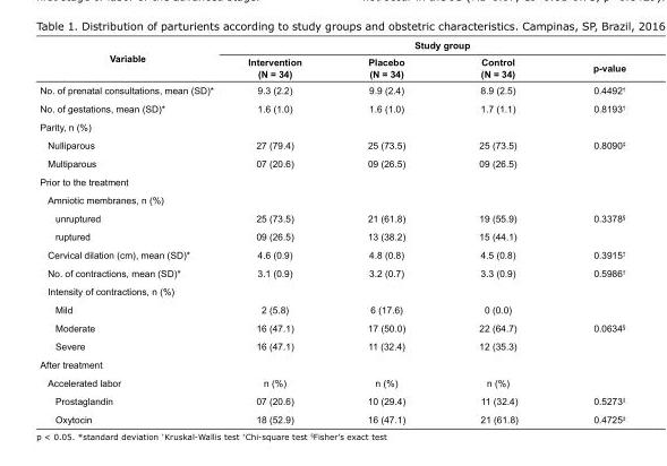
<table><tbody><tr><td rowspan="2">Variable</td><td colspan="4">Study group</td></tr><tr><td>Intervention (N = 34)</td><td>Placebo (N = 34)</td><td>Control (N = 34)</td><td>p-value</td></tr><tr><td>No. of prenatal consultations, mean (SD)*</td><td>9.3 (2.2)</td><td>9.9 (2.4)</td><td>8.9 (2.5)</td><td>0.4492<sup>†</sup></td></tr><tr><td>No. of gestations, mean (SD)*</td><td>1.6 (1.0)</td><td>1.6 (1.0)</td><td>1.7 (1.1)</td><td>0.8193<sup>†</sup></td></tr><tr><td colspan="5">Parity, n (%)</td></tr><tr><td>Nulliparous</td><td>27 (79.4)</td><td>25 (73.5)</td><td>25 (73.5)</td><td>0.8090<sup>‡</sup></td></tr><tr><td>Multiparous</td><td>07 (20.6)</td><td>09 (26.5)</td><td>09 (26.5)</td><td></td></tr><tr><td colspan="5">Prior to the treatment</td></tr><tr><td colspan="5">Amniotic membranes, n (%)</td></tr><tr><td>unruptured</td><td>25 (73.5)</td><td>21 (61.8)</td><td>19 (55.9)</td><td>0.3378<sup>§</sup></td></tr><tr><td>ruptured</td><td>09 (26.5)</td><td>13 (38.2)</td><td>15 (44.1)</td><td></td></tr><tr><td>Cervical dilation (cm), mean (SD)*</td><td>4.6 (0.9)</td><td>4.8 (0.8)</td><td>4.5 (0.8)</td><td>0.3915<sup>†</sup></td></tr><tr><td>No. of contractions, mean (SD)*</td><td>3.1 (0.9)</td><td>3.2 (0.7)</td><td>3.3 (0.9)</td><td>0.5986<sup>†</sup></td></tr><tr><td colspan="5">Intensity of contractions, n (%)</td></tr><tr><td>Mild</td><td>2 (5.8)</td><td>6 (17.6)</td><td>0 (0.0)</td><td></td></tr><tr><td>Moderate</td><td>16 (47.1)</td><td>17 (50.0)</td><td>22 (64.7)</td><td>0.0634<sup>§</sup></td></tr><tr><td>Severe</td><td>16 (47.1)</td><td>11 (32.4)</td><td>12 (35.3)</td><td></td></tr><tr><td colspan="5">After treatment</td></tr><tr><td>Accelerated labor</td><td>n (%)</td><td>n (%)</td><td>n (%)</td><td></td></tr><tr><td>Prostaglandin</td><td>07 (20.6)</td><td>10 (29.4)</td><td>11 (32.4)</td><td>0.5273<sup>‡</sup></td></tr><tr><td>Oxytocin</td><td>18 (52.9)</td><td>16 (47.1)</td><td>21 (61.8)</td><td>0.4725<sup>‡</sup></td></tr></tbody></table>